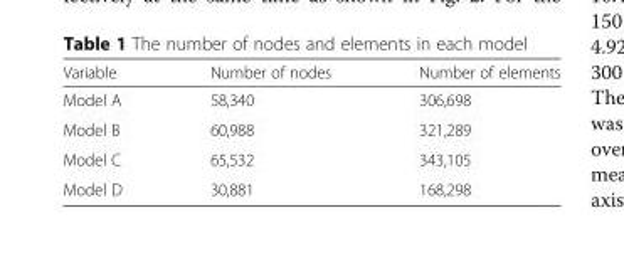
<table><thead><tr><td>Variable</td><td>Number of nodes</td><td>Number of elements</td></tr></thead><tbody><tr><td>Model A</td><td>58,340</td><td>306,698</td></tr><tr><td>Model B</td><td>60,988</td><td>321,289</td></tr><tr><td>Model C</td><td>65,532</td><td>343,105</td></tr><tr><td>Model D</td><td>30,881</td><td>168,298</td></tr></tbody></table>